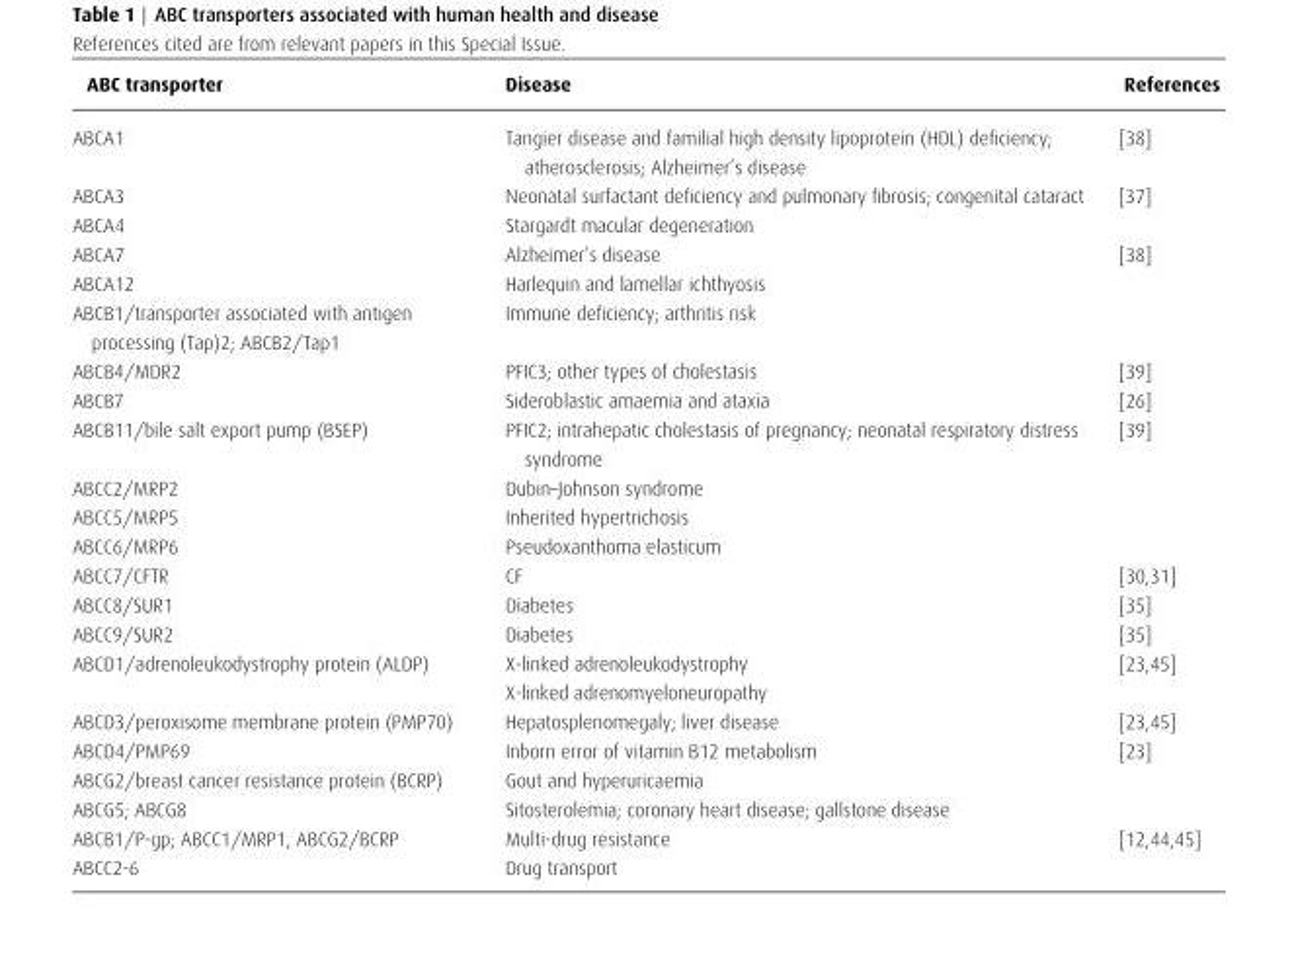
<table><thead><tr><td>ABC transporter</td><td>Disease</td><td>References</td></tr></thead><tbody><tr><td>ABCA1</td><td>Tangier disease and familial high density lipoprotein (HDL) deficiency; atherosclerosis; Alzheimer’s disease</td><td>[38]</td></tr><tr><td>ABCA3</td><td>Neonatal surfactant deficiency and pulmonary fibrosis; congenital cataract</td><td>[37]</td></tr><tr><td>ABCA4</td><td>Stargardt macular degeneration</td><td></td></tr><tr><td>ABCA7</td><td>Alzheimer’s disease</td><td>[38]</td></tr><tr><td>ABCA12</td><td>Harlequin and lamellar ichthyosis</td><td></td></tr><tr><td>ABCB1/transporter associated with antigen processing (Tap)2; ABCB2/Tap1</td><td>Immune deficiency; arthritis risk</td><td></td></tr><tr><td>ABCB4/MDR2</td><td>PFIC3; other types of cholestasis</td><td>[39]</td></tr><tr><td>ABCB7</td><td>Sideroblastic amaemia and ataxia</td><td>[26]</td></tr><tr><td>ABCB11/bile salt export pump (BSEP)</td><td>PFIC2; intrahepatic cholestasis of pregnancy; neonatal respiratory distress syndrome</td><td>[39]</td></tr><tr><td>ABCC2/MRP2</td><td>Dubin–Johnson syndrome</td><td></td></tr><tr><td>ABCC5/MRP5</td><td>Inherited hypertrichosis</td><td></td></tr><tr><td>ABCC6/MRP6</td><td>Pseudoxanthoma elasticum</td><td></td></tr><tr><td>ABCC7/CFTR</td><td>CF</td><td>[30,31]</td></tr><tr><td>ABCC8/SUR1</td><td>Diabetes</td><td>[35]</td></tr><tr><td>ABCC9/SUR2</td><td>Diabetes</td><td>[35]</td></tr><tr><td rowspan="2">ABCD1/adrenoleukodystrophy protein (ALDP)</td><td>X-linked adrenoleukodystrophy</td><td>[23,45]</td></tr><tr><td>X-linked adrenomyeloneuropathy</td><td></td></tr><tr><td>ABCD3/peroxisome membrane protein (PMP70)</td><td>Hepatosplenomegaly; liver disease</td><td>[23,45]</td></tr><tr><td>ABCD4/PMP69</td><td>Inborn error of vitamin B12 metabolism</td><td>[23]</td></tr><tr><td>ABCG2/breast cancer resistance protein (BCRP)</td><td>Gout and hyperuricaemia</td><td></td></tr><tr><td>ABCG5; ABCG8</td><td>Sitosterolemia; coronary heart disease; gallstone disease</td><td></td></tr><tr><td>ABCB1/P-gp; ABCC1/MRP1, ABCG2/BCRP</td><td>Multi-drug resistance</td><td>[12,44,45]</td></tr><tr><td>ABCC2-6</td><td>Drug transport</td><td></td></tr></tbody></table>